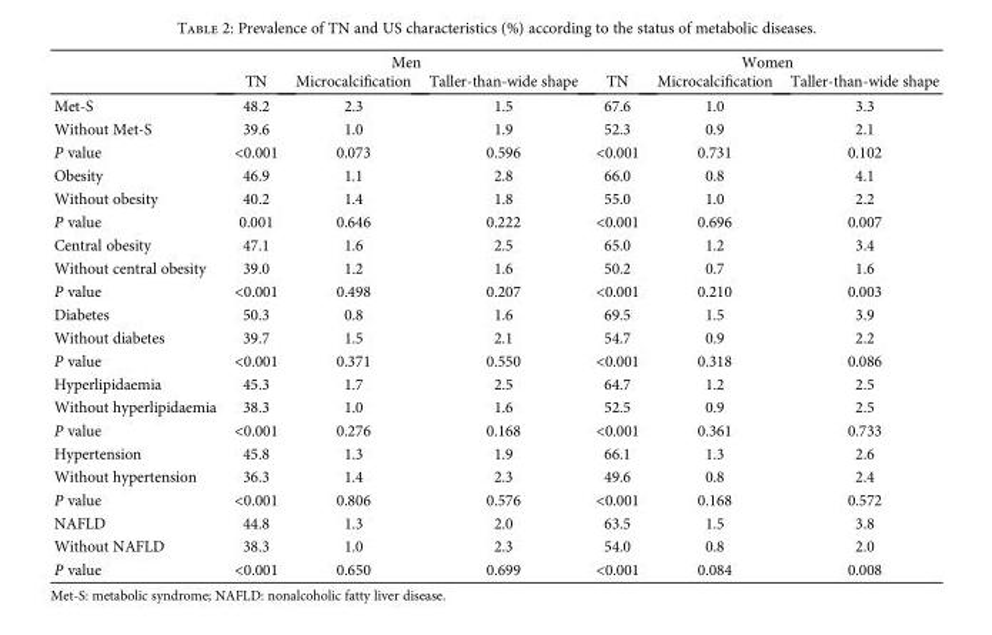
<table><thead><tr><td rowspan="2"></td><td colspan="3">Men</td><td colspan="3">Women</td></tr><tr><td>TN</td><td>Microcalcification</td><td>Taller-than-wide shape</td><td>TN</td><td>Microcalcification</td><td>Taller-than-wide shape</td></tr></thead><tbody><tr><td>Met-S</td><td>48.2</td><td>2.3</td><td>1.5</td><td>67.6</td><td>1.0</td><td>3.3</td></tr><tr><td>Without Met-S</td><td>39.6</td><td>1.0</td><td>1.9</td><td>52.3</td><td>0.9</td><td>2.1</td></tr><tr><td>P value</td><td>&lt;0.001</td><td>0.073</td><td>0.596</td><td>&lt;0.001</td><td>0.731</td><td>0.102</td></tr><tr><td>Obesity</td><td>46.9</td><td>1.1</td><td>2.8</td><td>66.0</td><td>0.8</td><td>4.1</td></tr><tr><td>Without obesity</td><td>40.2</td><td>1.4</td><td>1.8</td><td>55.0</td><td>1.0</td><td>2.2</td></tr><tr><td>P value</td><td>0.001</td><td>0.646</td><td>0.222</td><td>&lt;0.001</td><td>0.696</td><td>0.007</td></tr><tr><td>Central obesity</td><td>47.1</td><td>1.6</td><td>2.5</td><td>65.0</td><td>1.2</td><td>3.4</td></tr><tr><td>Without central obesity</td><td>39.0</td><td>1.2</td><td>1.6</td><td>50.2</td><td>0.7</td><td>1.6</td></tr><tr><td>P value</td><td>&lt;0.001</td><td>0.498</td><td>0.207</td><td>&lt;0.001</td><td>0.210</td><td>0.003</td></tr><tr><td>Diabetes</td><td>50.3</td><td>0.8</td><td>1.6</td><td>69.5</td><td>1.5</td><td>3.9</td></tr><tr><td>Without diabetes</td><td>39.7</td><td>1.5</td><td>2.1</td><td>54.7</td><td>0.9</td><td>2.2</td></tr><tr><td>P value</td><td>&lt;0.001</td><td>0.371</td><td>0.550</td><td>&lt;0.001</td><td>0.318</td><td>0.086</td></tr><tr><td>Hyperlipidaemia</td><td>45.3</td><td>1.7</td><td>2.5</td><td>64.7</td><td>1.2</td><td>2.5</td></tr><tr><td>Without hyperlipidaemia</td><td>38.3</td><td>1.0</td><td>1.6</td><td>52.5</td><td>0.9</td><td>2.5</td></tr><tr><td>P value</td><td>&lt;0.001</td><td>0.276</td><td>0.168</td><td>&lt;0.001</td><td>0.361</td><td>0.733</td></tr><tr><td>Hypertension</td><td>45.8</td><td>1.3</td><td>1.9</td><td>66.1</td><td>1.3</td><td>2.6</td></tr><tr><td>Without hypertension</td><td>36.3</td><td>1.4</td><td>2.3</td><td>49.6</td><td>0.8</td><td>2.4</td></tr><tr><td>P value</td><td>&lt;0.001</td><td>0.806</td><td>0.576</td><td>&lt;0.001</td><td>0.168</td><td>0.572</td></tr><tr><td>NAFLD</td><td>44.8</td><td>1.3</td><td>2.0</td><td>63.5</td><td>1.5</td><td>3.8</td></tr><tr><td>Without NAFLD</td><td>38.3</td><td>1.0</td><td>2.3</td><td>54.0</td><td>0.8</td><td>2.0</td></tr><tr><td>P value</td><td>&lt;0.001</td><td>0.650</td><td>0.699</td><td>&lt;0.001</td><td>0.084</td><td>0.008</td></tr></tbody></table>